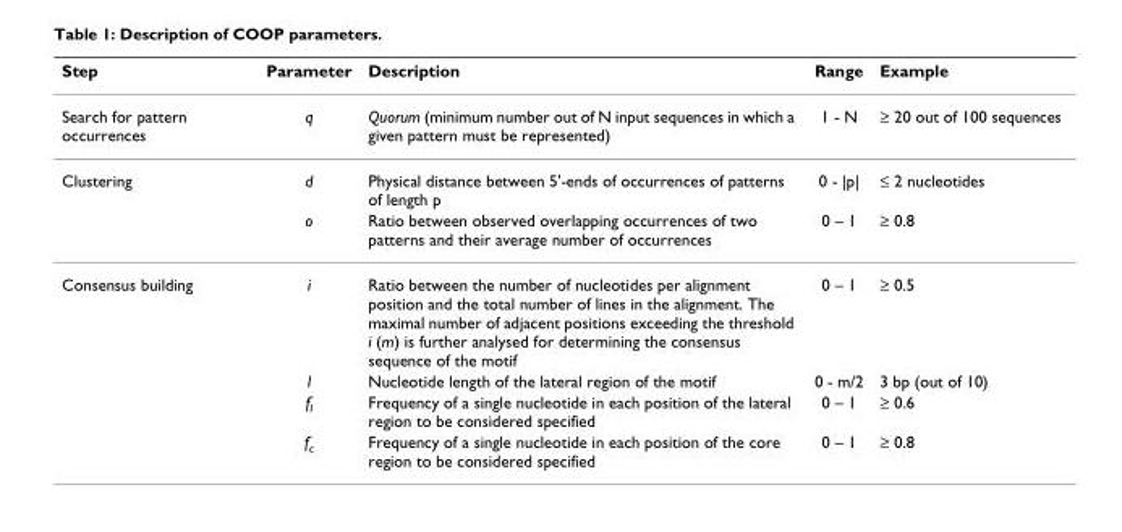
<table><thead><tr><td>Step</td><td>Parameter</td><td>Description</td><td>Range</td><td>Example</td></tr></thead><tbody><tr><td>Search for pattern occurrences</td><td>q</td><td>Quorum (minimum number out of N input sequences in which a given pattern must be represented)</td><td>1 - N</td><td>≥ 20 out of 100 sequences</td></tr><tr><td rowspan="2">Clustering</td><td>d</td><td>Physical distance between 5&#x27;-ends of occurrences of patterns of length p</td><td>0 - |p|</td><td>≤ 2 nucleotides</td></tr><tr><td>o</td><td>Ratio between observed overlapping occurrences of two patterns and their average number of occurrences</td><td>0 – 1</td><td>≥ 0.8</td></tr><tr><td rowspan="4">Consensus building</td><td>i</td><td>Ratio between the number of nucleotides per alignment position and the total number of lines in the alignment. The maximal number of adjacent positions exceeding the threshold i (m) is further analysed for determining the consensus sequence of the motif</td><td>0 – 1</td><td>≥ 0.5</td></tr><tr><td>l</td><td>Nucleotide length of the lateral region of the motif</td><td>0 - m/2</td><td>3 bp (out of 10)</td></tr><tr><td>fl</td><td>Frequency of a single nucleotide in each position of the lateral region to be considered specified</td><td>0 – 1</td><td>≥ 0.6</td></tr><tr><td>fc</td><td>Frequency of a single nucleotide in each position of the core region to be considered specified</td><td>0 – 1</td><td>≥ 0.8</td></tr></tbody></table>